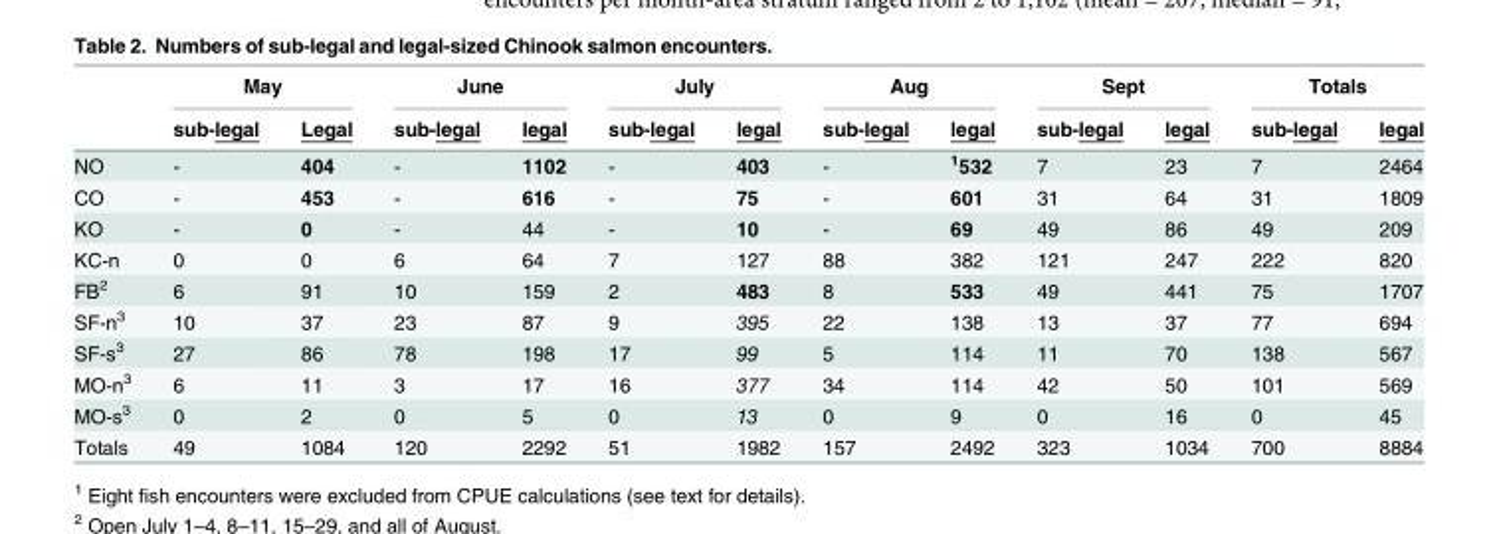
<table><thead><tr><td rowspan="2"></td><td colspan="2">May</td><td colspan="2">June</td><td colspan="2">July</td><td colspan="2">Aug</td><td colspan="2">Sept</td><td colspan="2">Totals</td></tr><tr><td>sub-legal</td><td>Legal</td><td>sub-legal</td><td>legal</td><td>sub-legal</td><td>legal</td><td>sub-legal</td><td>legal</td><td>sub-legal</td><td>legal</td><td>sub-legal</td><td>legal</td></tr></thead><tbody><tr><td>NO</td><td>-</td><td>404</td><td>-</td><td>1102</td><td>-</td><td>403</td><td>-</td><td><sup>1</sup>532</td><td>7</td><td>23</td><td>7</td><td>2464</td></tr><tr><td>CO</td><td>-</td><td>453</td><td>-</td><td>616</td><td>-</td><td>75</td><td>-</td><td>601</td><td>31</td><td>64</td><td>31</td><td>1809</td></tr><tr><td>KO</td><td>-</td><td>0</td><td>-</td><td>44</td><td>-</td><td>10</td><td>-</td><td>69</td><td>49</td><td>86</td><td>49</td><td>209</td></tr><tr><td>KC-n</td><td>0</td><td>0</td><td>6</td><td>64</td><td>7</td><td>127</td><td>88</td><td>382</td><td>121</td><td>247</td><td>222</td><td>820</td></tr><tr><td>FB<sup>2</sup></td><td>6</td><td>91</td><td>10</td><td>159</td><td>2</td><td>483</td><td>8</td><td>533</td><td>49</td><td>441</td><td>75</td><td>1707</td></tr><tr><td>SF-n<sup>3</sup></td><td>10</td><td>37</td><td>23</td><td>87</td><td>9</td><td>395</td><td>22</td><td>138</td><td>13</td><td>37</td><td>77</td><td>694</td></tr><tr><td>SF-s<sup>3</sup></td><td>27</td><td>86</td><td>78</td><td>198</td><td>17</td><td>99</td><td>5</td><td>114</td><td>11</td><td>70</td><td>138</td><td>567</td></tr><tr><td>MO-n<sup>3</sup></td><td>6</td><td>11</td><td>3</td><td>17</td><td>16</td><td>377</td><td>34</td><td>114</td><td>42</td><td>50</td><td>101</td><td>569</td></tr><tr><td>MO-s<sup>3</sup></td><td>0</td><td>2</td><td>0</td><td>5</td><td>0</td><td>13</td><td>0</td><td>9</td><td>0</td><td>16</td><td>0</td><td>45</td></tr><tr><td>Totals</td><td>49</td><td>1084</td><td>120</td><td>2292</td><td>51</td><td>1982</td><td>157</td><td>2492</td><td>323</td><td>1034</td><td>700</td><td>8884</td></tr></tbody></table>